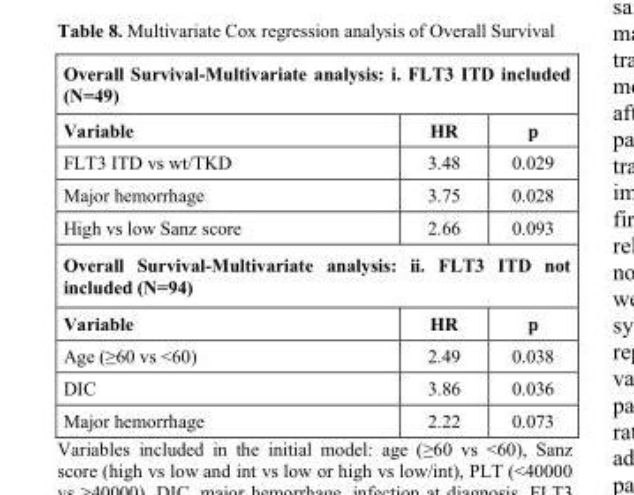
<table><thead><tr><td colspan="3">Overall Survival-Multivariate analysis: i. FLT3 ITD included (N=49)</td></tr><tr><td>Variable</td><td>HR</td><td>p</td></tr></thead><tbody><tr><td>FLT3 ITD vs wt/TKD</td><td>3.48</td><td>0.029</td></tr><tr><td>Major hemorrhage</td><td>3.75</td><td>0.028</td></tr><tr><td>High vs low Sanz score</td><td>2.66</td><td>0.093</td></tr><tr><td colspan="3">Overall Survival-Multivariate analysis: ii. FLT3 ITD not included (N=94)</td></tr><tr><td>Variable</td><td>HR</td><td>p</td></tr><tr><td>Age (≥60 vs &lt;60)</td><td>2.49</td><td>0.038</td></tr><tr><td>DIC</td><td>3.86</td><td>0.036</td></tr><tr><td>Major hemorrhage</td><td>2.22</td><td>0.073</td></tr></tbody></table>